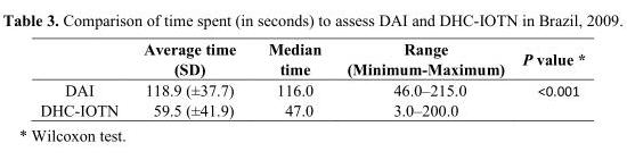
<table><thead><tr><td></td><td>Average time (SD)</td><td>Median time</td><td>Range (Minimum-Maximum)</td><td>P value *</td></tr></thead><tbody><tr><td>DAI</td><td>118.9 (±37.7)</td><td>116.0</td><td>46.0–215.0</td><td>&lt;0.001</td></tr><tr><td>DHC-IOTN</td><td>59.5 (±41.9)</td><td>47.0</td><td>3.0–200.0</td><td></td></tr></tbody></table>